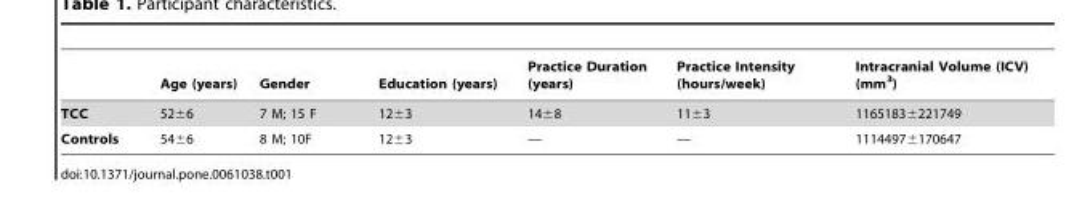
<table><thead><tr><td></td><td>Age (years)</td><td>Gender</td><td>Education (years)</td><td>Practice Duration (years)</td><td>Practice Intensity (hours/week)</td><td>Intracranial Volume (ICV) (mm<sup>3</sup>)</td></tr></thead><tbody><tr><td>TCC</td><td>52±6</td><td>7 M; 15 F</td><td>12±3</td><td>14±8</td><td>11±3</td><td>1165183±221749</td></tr><tr><td>Controls</td><td>54±6</td><td>8 M; 10F</td><td>12±3</td><td>—</td><td>—</td><td>1114497±170647</td></tr></tbody></table>